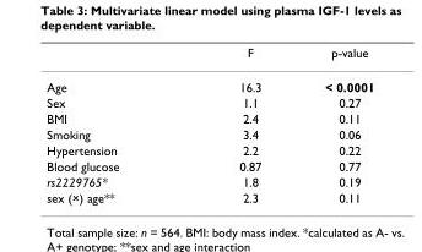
<table><thead><tr><td></td><td>F</td><td>p-value</td></tr></thead><tbody><tr><td>Age</td><td>16.3</td><td>&lt; 0.0001</td></tr><tr><td>Sex</td><td>1.1</td><td>0.27</td></tr><tr><td>BMI</td><td>2.4</td><td>0.11</td></tr><tr><td>Smoking</td><td>3.4</td><td>0.06</td></tr><tr><td>Hypertension</td><td>2.2</td><td>0.22</td></tr><tr><td>Blood glucose</td><td>0.87</td><td>0.77</td></tr><tr><td>rs2229765*</td><td>1.8</td><td>0.19</td></tr><tr><td>sex (×) age**</td><td>2.3</td><td>0.11</td></tr></tbody></table>